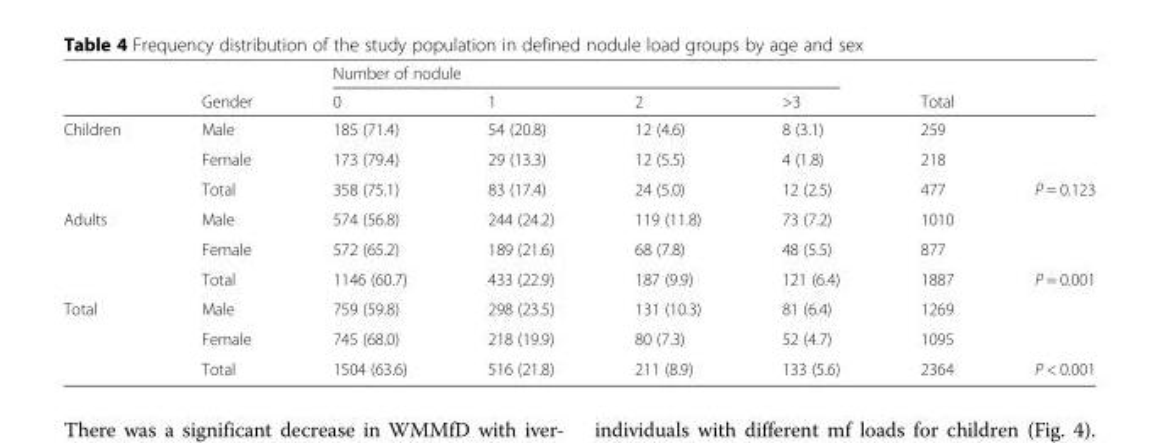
<table><thead><tr><td rowspan="2"></td><td rowspan="2">Gender</td><td colspan="4">Number of nodule</td><td rowspan="2">Total</td><td rowspan="2"></td></tr><tr><td>0</td><td>1</td><td>2</td><td>&gt;3</td></tr></thead><tbody><tr><td rowspan="3">Children</td><td>Male</td><td>185 (71.4)</td><td>54 (20.8)</td><td>12 (4.6)</td><td>8 (3.1)</td><td>259</td><td></td></tr><tr><td>Female</td><td>173 (79.4)</td><td>29 (13.3)</td><td>12 (5.5)</td><td>4 (1.8)</td><td>218</td><td></td></tr><tr><td>Total</td><td>358 (75.1)</td><td>83 (17.4)</td><td>24 (5.0)</td><td>12 (2.5)</td><td>477</td><td>P = 0.123</td></tr><tr><td rowspan="3">Adults</td><td>Male</td><td>574 (56.8)</td><td>244 (24.2)</td><td>119 (11.8)</td><td>73 (7.2)</td><td>1010</td><td></td></tr><tr><td>Female</td><td>572 (65.2)</td><td>189 (21.6)</td><td>68 (7.8)</td><td>48 (5.5)</td><td>877</td><td></td></tr><tr><td>Total</td><td>1146 (60.7)</td><td>433 (22.9)</td><td>187 (9.9)</td><td>121 (6.4)</td><td>1887</td><td>P = 0.001</td></tr><tr><td rowspan="3">Total</td><td>Male</td><td>759 (59.8)</td><td>298 (23.5)</td><td>131 (10.3)</td><td>81 (6.4)</td><td>1269</td><td></td></tr><tr><td>Female</td><td>745 (68.0)</td><td>218 (19.9)</td><td>80 (7.3)</td><td>52 (4.7)</td><td>1095</td><td></td></tr><tr><td>Total</td><td>1504 (63.6)</td><td>516 (21.8)</td><td>211 (8.9)</td><td>133 (5.6)</td><td>2364</td><td>P &lt; 0.001</td></tr></tbody></table>